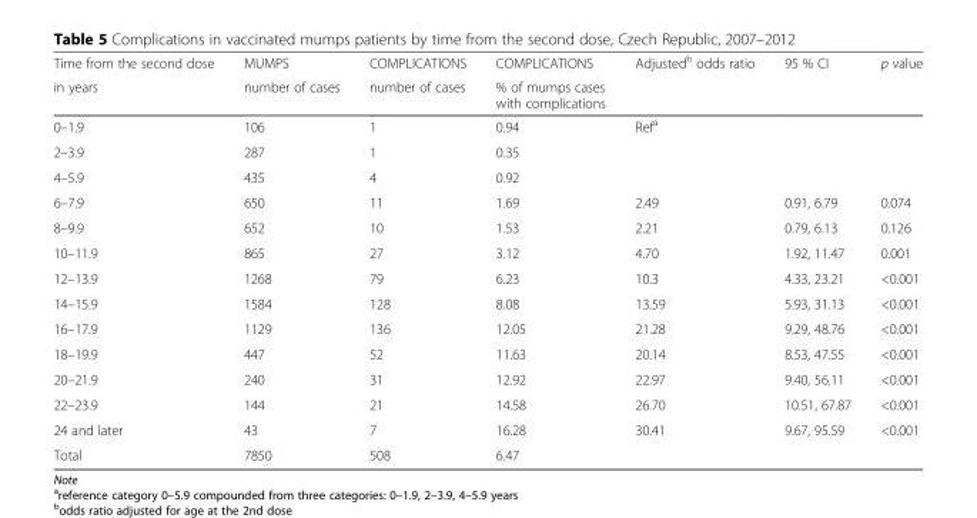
<table><thead><tr><td rowspan="2">Time from the second dose in years</td><td rowspan="2">MUMPS number of cases</td><td rowspan="2">COMPLICATIONS number of cases</td><td rowspan="2">COMPLICATIONS % of mumps cases with complications</td><td rowspan="2">Adjusted<sup>b</sup> odds ratio</td><td rowspan="2">95 % CI</td><td rowspan="2">p value</td></tr><tr></tr></thead><tbody><tr><td>0–1.9</td><td>106</td><td>1</td><td>0.94</td><td rowspan="3">Ref<sup>a</sup></td><td rowspan="3"></td><td rowspan="3"></td></tr><tr><td>2–3.9</td><td>287</td><td>1</td><td>0.35</td></tr><tr><td>4–5.9</td><td>435</td><td>4</td><td>0.92</td></tr><tr><td>6–7.9</td><td>650</td><td>11</td><td>1.69</td><td>2.49</td><td>0.91, 6.79</td><td>0.074</td></tr><tr><td>8–9.9</td><td>652</td><td>10</td><td>1.53</td><td>2.21</td><td>0.79, 6.13</td><td>0.126</td></tr><tr><td>10–11.9</td><td>865</td><td>27</td><td>3.12</td><td>4.70</td><td>1.92, 11.47</td><td>0.001</td></tr><tr><td>12–13.9</td><td>1268</td><td>79</td><td>6.23</td><td>10.3</td><td>4.33, 23.21</td><td>&lt;0.001</td></tr><tr><td>14–15.9</td><td>1584</td><td>128</td><td>8.08</td><td>13.59</td><td>5.93, 31.13</td><td>&lt;0.001</td></tr><tr><td>16–17.9</td><td>1129</td><td>136</td><td>12.05</td><td>21.28</td><td>9.29, 48.76</td><td>&lt;0.001</td></tr><tr><td>18–19.9</td><td>447</td><td>52</td><td>11.63</td><td>20.14</td><td>8.53, 47.55</td><td>&lt;0.001</td></tr><tr><td>20–21.9</td><td>240</td><td>31</td><td>12.92</td><td>22.97</td><td>9.40, 56.11</td><td>&lt;0.001</td></tr><tr><td>22–23.9</td><td>144</td><td>21</td><td>14.58</td><td>26.70</td><td>10.51, 67.87</td><td>&lt;0.001</td></tr><tr><td>24 and later</td><td>43</td><td>7</td><td>16.28</td><td>30.41</td><td>9.67, 95.59</td><td>&lt;0.001</td></tr><tr><td>Total</td><td>7850</td><td>508</td><td>6.47</td><td></td><td></td><td></td></tr></tbody></table>